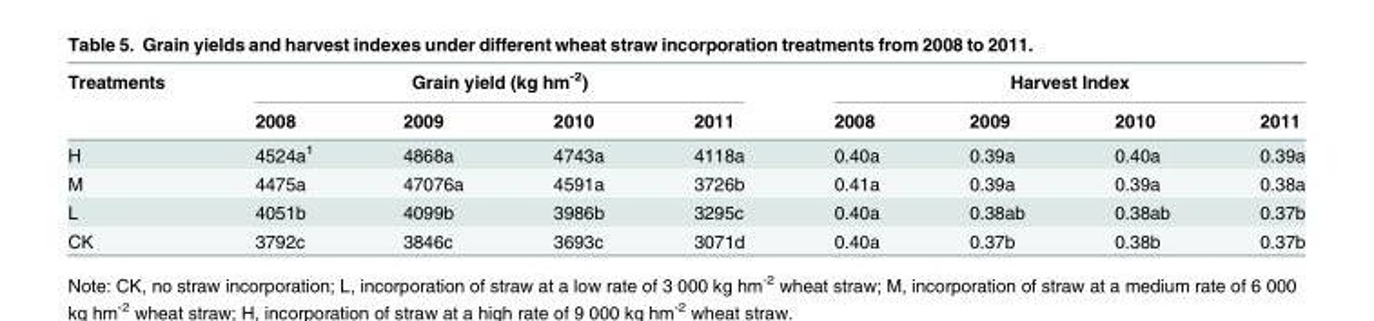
<table><thead><tr><td rowspan="2">Treatments</td><td colspan="4">Grain yield (kg hm<sup>-2</sup>)</td><td colspan="4">Harvest Index</td></tr><tr><td>2008</td><td>2009</td><td>2010</td><td>2011</td><td>2008</td><td>2009</td><td>2010</td><td>2011</td></tr></thead><tbody><tr><td>H</td><td>4524a<sup>1</sup></td><td>4868a</td><td>4743a</td><td>4118a</td><td>0.40a</td><td>0.39a</td><td>0.40a</td><td>0.39a</td></tr><tr><td>M</td><td>4475a</td><td>47076a</td><td>4591a</td><td>3726b</td><td>0.41a</td><td>0.39a</td><td>0.39a</td><td>0.38a</td></tr><tr><td>L</td><td>4051b</td><td>4099b</td><td>3986b</td><td>3295c</td><td>0.40a</td><td>0.38ab</td><td>0.38ab</td><td>0.37b</td></tr><tr><td>CK</td><td>3792c</td><td>3846c</td><td>3693c</td><td>3071d</td><td>0.40a</td><td>0.37b</td><td>0.38b</td><td>0.37b</td></tr></tbody></table>